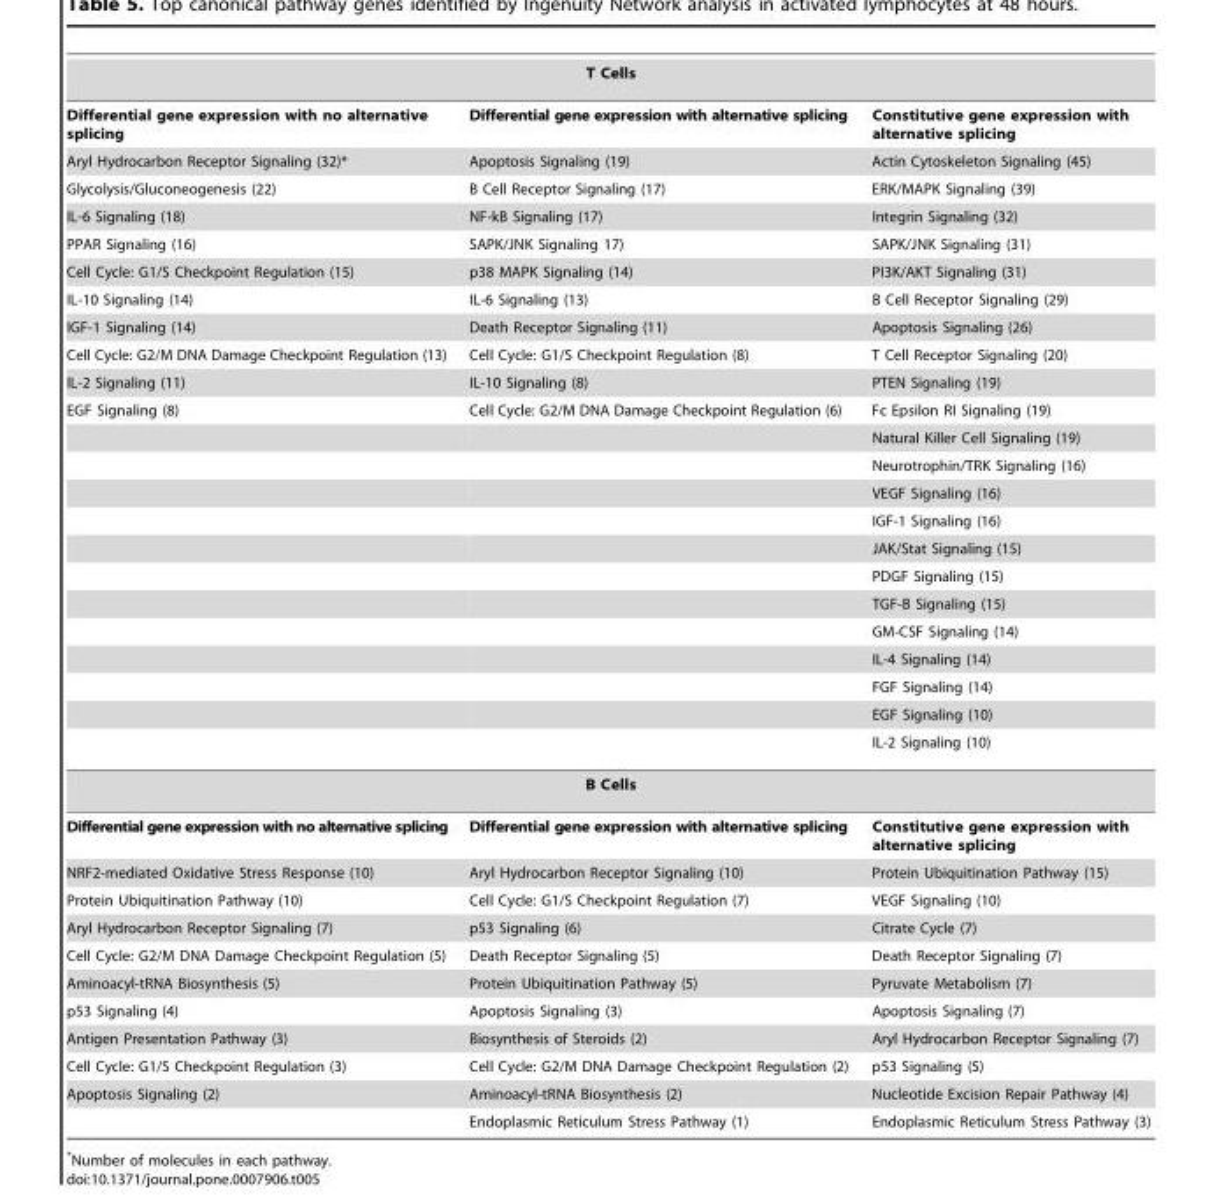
<table><tbody><tr><td colspan="3">T Cells</td></tr><tr><td>Differential gene expression with no alternative splicing</td><td>Differential gene expression with alternative splicing</td><td>Constitutive gene expression with alternative splicing</td></tr><tr><td>Aryl Hydrocarbon Receptor Signaling (32)*</td><td>Apoptosis Signaling (19)</td><td>Actin Cytoskeleton Signaling (45)</td></tr><tr><td>Glycolysis/Gluconeogenesis (22)</td><td>B Cell Receptor Signaling (17)</td><td>ERK/MAPK Signaling (39)</td></tr><tr><td>IL-6 Signaling (18)</td><td>NF-kB Signaling (17)</td><td>Integrin Signaling (32)</td></tr><tr><td>PPAR Signaling (16)</td><td>SAPK/JNK Signaling 17)</td><td>SAPK/JNK Signaling (31)</td></tr><tr><td>Cell Cycle: G1/S Checkpoint Regulation (15)</td><td>p38 MAPK Signaling (14)</td><td>PI3K/AKT Signaling (31)</td></tr><tr><td>IL-10 Signaling (14)</td><td>IL-6 Signaling (13)</td><td>B Cell Receptor Signaling (29)</td></tr><tr><td>IGF-1 Signaling (14)</td><td>Death Receptor Signaling (11)</td><td>Apoptosis Signaling (26)</td></tr><tr><td>Cell Cycle: G2/M DNA Damage Checkpoint Regulation (13)</td><td>Cell Cycle: G1/S Checkpoint Regulation (8)</td><td>T Cell Receptor Signaling (20)</td></tr><tr><td>IL-2 Signaling (11)</td><td>IL-10 Signaling (8)</td><td>PTEN Signaling (19)</td></tr><tr><td rowspan="13">EGF Signaling (8)</td><td>Cell Cycle: G2/M DNA Damage Checkpoint Regulation (6)</td><td>Fc Epsilon RI Signaling (19)</td></tr><tr><td></td><td>Natural Killer Cell Signaling (19)</td></tr><tr><td></td><td>Neurotrophin/TRK Signaling (16)</td></tr><tr><td></td><td>VEGF Signaling (16)</td></tr><tr><td></td><td>IGF-1 Signaling (16)</td></tr><tr><td></td><td>JAK/Stat Signaling (15)</td></tr><tr><td></td><td>PDGF Signaling (15)</td></tr><tr><td></td><td>TGF-B Signaling (15)</td></tr><tr><td></td><td>GM-CSF Signaling (14)</td></tr><tr><td></td><td>IL-4 Signaling (14)</td></tr><tr><td></td><td>FGF Signaling (14)</td></tr><tr><td></td><td>EGF Signaling (10)</td></tr><tr><td></td><td>IL-2 Signaling (10)</td></tr><tr><td colspan="3">B Cells</td></tr><tr><td>Differential gene expression with no alternative splicing</td><td>Differential gene expression with alternative splicing</td><td>Constitutive gene expression with alternative splicing</td></tr><tr><td>NRF2-mediated Oxidative Stress Response (10)</td><td>Aryl Hydrocarbon Receptor Signaling (10)</td><td>Protein Ubiquitination Pathway (15)</td></tr><tr><td>Protein Ubiquitination Pathway (10)</td><td>Cell Cycle: G1/S Checkpoint Regulation (7)</td><td>VEGF Signaling (10)</td></tr><tr><td>Aryl Hydrocarbon Receptor Signaling (7)</td><td>p53 Signaling (6)</td><td>Citrate Cycle (7)</td></tr><tr><td>Cell Cycle: G2/M DNA Damage Checkpoint Regulation (5)</td><td>Death Receptor Signaling (5)</td><td>Death Receptor Signaling (7)</td></tr><tr><td>Aminoacyl-tRNA Biosynthesis (5)</td><td>Protein Ubiquitination Pathway (5)</td><td>Pyruvate Metabolism (7)</td></tr><tr><td>p53 Signaling (4)</td><td>Apoptosis Signaling (3)</td><td>Apoptosis Signaling (7)</td></tr><tr><td>Antigen Presentation Pathway (3)</td><td>Biosynthesis of Steroids (2)</td><td>Aryl Hydrocarbon Receptor Signaling (7)</td></tr><tr><td>Cell Cycle: G1/S Checkpoint Regulation (3)</td><td>Cell Cycle: G2/M DNA Damage Checkpoint Regulation (2)</td><td>p53 Signaling (5)</td></tr><tr><td rowspan="2">Apoptosis Signaling (2)</td><td>Aminoacyl-tRNA Biosynthesis (2)</td><td>Nucleotide Excision Repair Pathway (4)</td></tr><tr><td>Endoplasmic Reticulum Stress Pathway (1)</td><td>Endoplasmic Reticulum Stress Pathway (3)</td></tr></tbody></table>